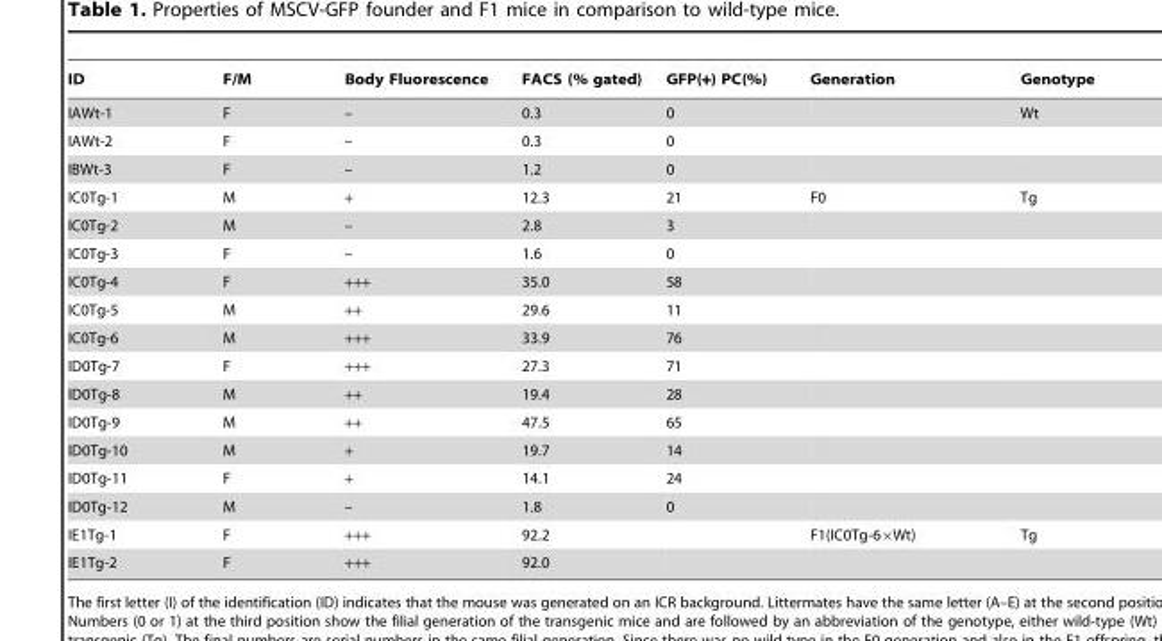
<table><thead><tr><td>ID</td><td>F/M</td><td>Body Fluorescence</td><td>FACS (% gated)</td><td>GFP(+) PC(%)</td><td>Generation</td><td>Genotype</td></tr></thead><tbody><tr><td>IAWt-1</td><td>F</td><td>–</td><td>0.3</td><td>0</td><td></td><td>Wt</td></tr><tr><td>IAWt-2</td><td>F</td><td>–</td><td>0.3</td><td>0</td><td></td><td></td></tr><tr><td>IBWt-3</td><td>F</td><td>–</td><td>1.2</td><td>0</td><td></td><td></td></tr><tr><td>IC0Tg-1</td><td>M</td><td>+</td><td>12.3</td><td>21</td><td>F0</td><td>Tg</td></tr><tr><td>IC0Tg-2</td><td>M</td><td>–</td><td>2.8</td><td>3</td><td></td><td></td></tr><tr><td>IC0Tg-3</td><td>F</td><td>–</td><td>1.6</td><td>0</td><td></td><td></td></tr><tr><td>IC0Tg-4</td><td>F</td><td>+++</td><td>35.0</td><td>58</td><td></td><td></td></tr><tr><td>IC0Tg-5</td><td>M</td><td>++</td><td>29.6</td><td>11</td><td></td><td></td></tr><tr><td>IC0Tg-6</td><td>M</td><td>+++</td><td>33.9</td><td>76</td><td></td><td></td></tr><tr><td>ID0Tg-7</td><td>F</td><td>+++</td><td>27.3</td><td>71</td><td></td><td></td></tr><tr><td>ID0Tg-8</td><td>M</td><td>++</td><td>19.4</td><td>28</td><td></td><td></td></tr><tr><td>ID0Tg-9</td><td>M</td><td>++</td><td>47.5</td><td>65</td><td></td><td></td></tr><tr><td>ID0Tg-10</td><td>M</td><td>+</td><td>19.7</td><td>14</td><td></td><td></td></tr><tr><td>ID0Tg-11</td><td>F</td><td>+</td><td>14.1</td><td>24</td><td></td><td></td></tr><tr><td>ID0Tg-12</td><td>M</td><td>–</td><td>1.8</td><td>0</td><td></td><td></td></tr><tr><td>IE1Tg-1</td><td>F</td><td>+++</td><td>92.2</td><td></td><td>F1(IC0Tg-6×Wt)</td><td>Tg</td></tr><tr><td>IE1Tg-2</td><td>F</td><td>+++</td><td>92.0</td><td></td><td></td><td></td></tr></tbody></table>